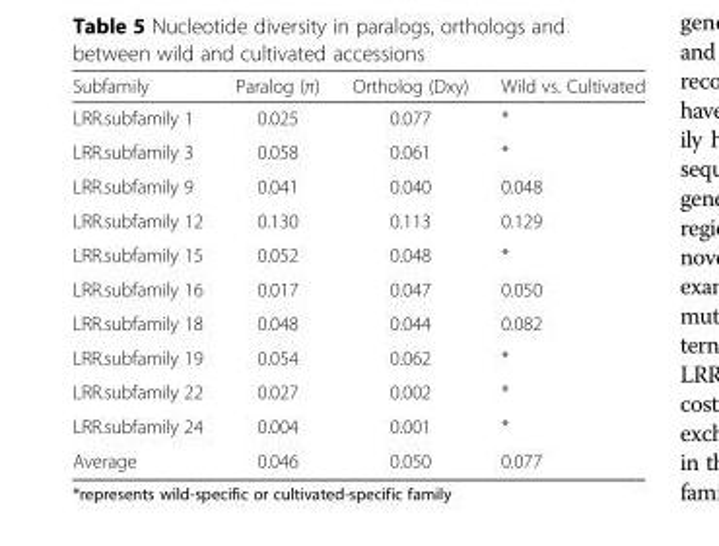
<table><thead><tr><td>Subfamily</td><td>Paralog (π)</td><td>Ortholog (Dxy)</td><td>Wild vs. Cultivated</td></tr></thead><tbody><tr><td>LRR.subfamily 1</td><td>0.025</td><td>0.077</td><td>*</td></tr><tr><td>LRR.subfamily 3</td><td>0.058</td><td>0.061</td><td>*</td></tr><tr><td>LRR.subfamily 9</td><td>0.041</td><td>0.040</td><td>0.048</td></tr><tr><td>LRR.subfamily 12</td><td>0.130</td><td>0.113</td><td>0.129</td></tr><tr><td>LRR.subfamily 15</td><td>0.052</td><td>0.048</td><td>*</td></tr><tr><td>LRR.subfamily 16</td><td>0.017</td><td>0.047</td><td>0.050</td></tr><tr><td>LRR.subfamily 18</td><td>0.048</td><td>0.044</td><td>0.082</td></tr><tr><td>LRR.subfamily 19</td><td>0.054</td><td>0.062</td><td>*</td></tr><tr><td>LRR.subfamily 22</td><td>0.027</td><td>0.002</td><td>*</td></tr><tr><td>LRR.subfamily 24</td><td>0.004</td><td>0.001</td><td>*</td></tr><tr><td>Average</td><td>0.046</td><td>0.050</td><td>0.077</td></tr></tbody></table>